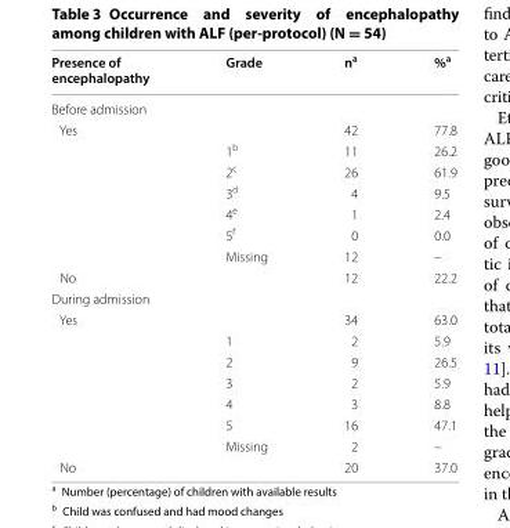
<table><thead><tr><td>Presence of encephalopathy</td><td>Grade</td><td>n<sup>a</sup></td><td>%<sup>a</sup></td></tr></thead><tbody><tr><td colspan="4">Before admission</td></tr><tr><td rowspan="7">Yes</td><td></td><td>42</td><td>77.8</td></tr><tr><td>1<sup>b</sup></td><td>11</td><td>26.2</td></tr><tr><td>2<sup>c</sup></td><td>26</td><td>61.9</td></tr><tr><td>3<sup>d</sup></td><td>4</td><td>9.5</td></tr><tr><td>4<sup>e</sup></td><td>1</td><td>2.4</td></tr><tr><td>5<sup>f</sup></td><td>0</td><td>0.0</td></tr><tr><td>Missing</td><td>12</td><td>–</td></tr><tr><td>No</td><td></td><td>12</td><td>22.2</td></tr><tr><td colspan="4">During admission</td></tr><tr><td rowspan="7">Yes</td><td></td><td>34</td><td>63.0</td></tr><tr><td>1</td><td>2</td><td>5.9</td></tr><tr><td>2</td><td>9</td><td>26.5</td></tr><tr><td>3</td><td>2</td><td>5.9</td></tr><tr><td>4</td><td>3</td><td>8.8</td></tr><tr><td>5</td><td>16</td><td>47.1</td></tr><tr><td>Missing</td><td>2</td><td>–</td></tr><tr><td>No</td><td></td><td>20</td><td>37.0</td></tr></tbody></table>